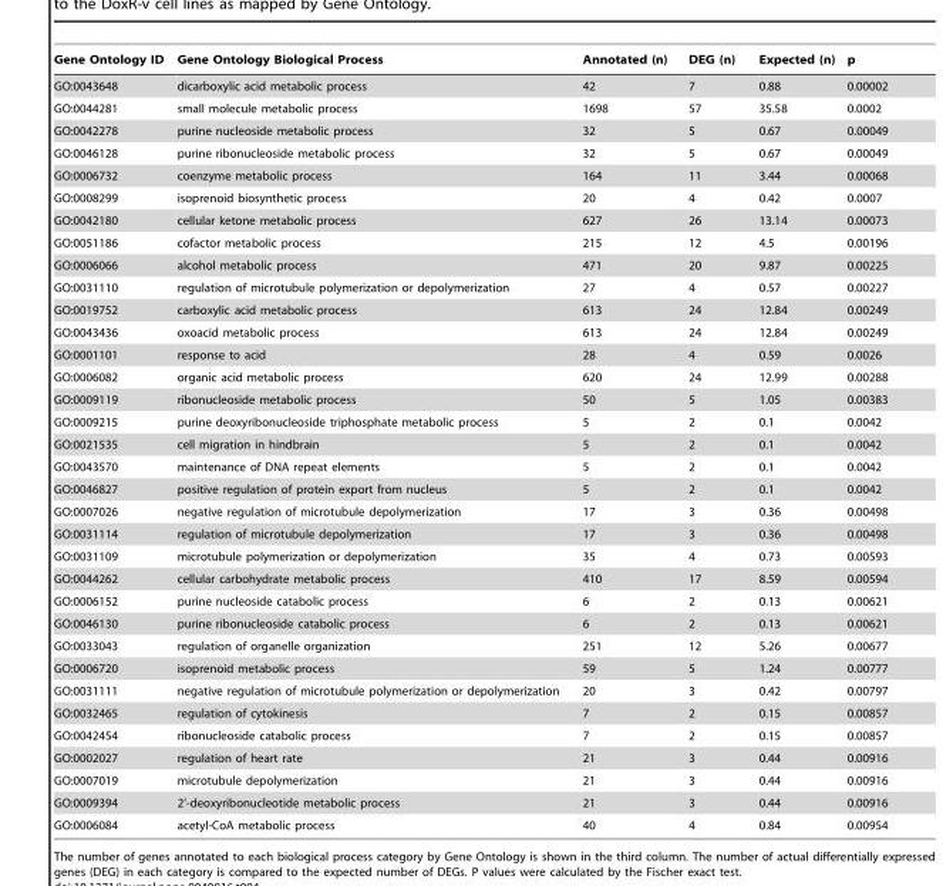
<table><thead><tr><td>Gene Ontology ID</td><td>Gene Ontology Biological Process</td><td>Annotated (n)</td><td>DEG (n)</td><td>Expected (n)</td><td>p</td></tr></thead><tbody><tr><td>GO:0043648</td><td>dicarboxylic acid metabolic process</td><td>42</td><td>7</td><td>0.88</td><td>0.00002</td></tr><tr><td>GO:0044281</td><td>small molecule metabolic process</td><td>1698</td><td>57</td><td>35.58</td><td>0.0002</td></tr><tr><td>GO:0042278</td><td>purine nucleoside metabolic process</td><td>32</td><td>5</td><td>0.67</td><td>0.00049</td></tr><tr><td>GO:0046128</td><td>purine ribonucleoside metabolic process</td><td>32</td><td>5</td><td>0.67</td><td>0.00049</td></tr><tr><td>GO:0006732</td><td>coenzyme metabolic process</td><td>164</td><td>11</td><td>3.44</td><td>0.00068</td></tr><tr><td>GO:0008299</td><td>isoprenoid biosynthetic process</td><td>20</td><td>4</td><td>0.42</td><td>0.0007</td></tr><tr><td>GO:0042180</td><td>cellular ketone metabolic process</td><td>627</td><td>26</td><td>13.14</td><td>0.00073</td></tr><tr><td>GO:0051186</td><td>cofactor metabolic process</td><td>215</td><td>12</td><td>4.5</td><td>0.00196</td></tr><tr><td>GO:0006066</td><td>alcohol metabolic process</td><td>471</td><td>20</td><td>9.87</td><td>0.00225</td></tr><tr><td>GO:0031110</td><td>regulation of microtubule polymerization or depolymerization</td><td>27</td><td>4</td><td>0.57</td><td>0.00227</td></tr><tr><td>GO:0019752</td><td>carboxylic acid metabolic process</td><td>613</td><td>24</td><td>12.84</td><td>0.00249</td></tr><tr><td>GO:0043436</td><td>oxoacid metabolic process</td><td>613</td><td>24</td><td>12.84</td><td>0.00249</td></tr><tr><td>GO:0001101</td><td>response to acid</td><td>28</td><td>4</td><td>0.59</td><td>0.0026</td></tr><tr><td>GO:0006082</td><td>organic acid metabolic process</td><td>620</td><td>24</td><td>12.99</td><td>0.00288</td></tr><tr><td>GO:0009119</td><td>ribonucleoside metabolic process</td><td>50</td><td>5</td><td>1.05</td><td>0.00383</td></tr><tr><td>GO:0009215</td><td>purine deoxyribonucleoside triphosphate metabolic process</td><td>5</td><td>2</td><td>0.1</td><td>0.0042</td></tr><tr><td>GO:0021535</td><td>cell migration in hindbrain</td><td>5</td><td>2</td><td>0.1</td><td>0.0042</td></tr><tr><td>GO:0043570</td><td>maintenance of DNA repeat elements</td><td>5</td><td>2</td><td>0.1</td><td>0.0042</td></tr><tr><td>GO:0046827</td><td>positive regulation of protein export from nucleus</td><td>5</td><td>2</td><td>0.1</td><td>0.0042</td></tr><tr><td>GO:0007026</td><td>negative regulation of microtubule depolymerization</td><td>17</td><td>3</td><td>0.36</td><td>0.00498</td></tr><tr><td>GO:0031114</td><td>regulation of microtubule depolymerization</td><td>17</td><td>3</td><td>0.36</td><td>0.00498</td></tr><tr><td>GO:0031109</td><td>microtubule polymerization or depolymerization</td><td>35</td><td>4</td><td>0.73</td><td>0.00593</td></tr><tr><td>GO:0044262</td><td>cellular carbohydrate metabolic process</td><td>410</td><td>17</td><td>8.59</td><td>0.00594</td></tr><tr><td>GO:0006152</td><td>purine nucleoside catabolic process</td><td>6</td><td>2</td><td>0.13</td><td>0.00621</td></tr><tr><td>GO:0046130</td><td>purine ribonucleoside catabolic process</td><td>6</td><td>2</td><td>0.13</td><td>0.00621</td></tr><tr><td>GO:0033043</td><td>regulation of organelle organization</td><td>251</td><td>12</td><td>5.26</td><td>0.00677</td></tr><tr><td>GO:0006720</td><td>isoprenoid metabolic process</td><td>59</td><td>5</td><td>1.24</td><td>0.00777</td></tr><tr><td>GO:0031111</td><td>negative regulation of microtubule polymerization or depolymerization</td><td>20</td><td>3</td><td>0.42</td><td>0.00797</td></tr><tr><td>GO:0032465</td><td>regulation of cytokinesis</td><td>7</td><td>2</td><td>0.15</td><td>0.00857</td></tr><tr><td>GO:0042454</td><td>ribonucleoside catabolic process</td><td>7</td><td>2</td><td>0.15</td><td>0.00857</td></tr><tr><td>GO:0002027</td><td>regulation of heart rate</td><td>21</td><td>3</td><td>0.44</td><td>0.00916</td></tr><tr><td>GO:0007019</td><td>microtubule depolymerization</td><td>21</td><td>3</td><td>0.44</td><td>0.00916</td></tr><tr><td>GO:0009394</td><td>2’-deoxyribonucleotide metabolic process</td><td>21</td><td>3</td><td>0.44</td><td>0.00916</td></tr><tr><td>GO:0006084</td><td>acetyl-CoA metabolic process</td><td>40</td><td>4</td><td>0.84</td><td>0.00954</td></tr></tbody></table>